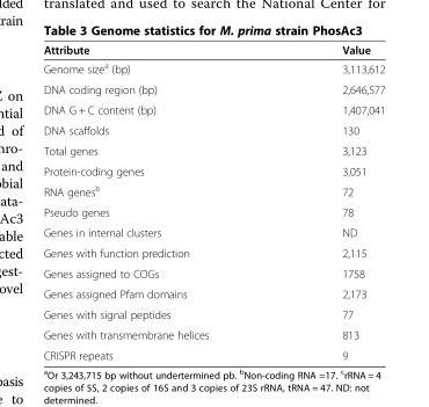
<table><thead><tr><td>Attribute</td><td>Value</td></tr></thead><tbody><tr><td>Genome size<sup>a</sup> (bp)</td><td>3,113,612</td></tr><tr><td>DNA coding region (bp)</td><td>2,646,577</td></tr><tr><td>DNA G + C content (bp)</td><td>1,407,041</td></tr><tr><td>DNA scaffolds</td><td>130</td></tr><tr><td>Total genes</td><td>3,123</td></tr><tr><td>Protein-coding genes</td><td>3,051</td></tr><tr><td>RNA genes<sup>b</sup></td><td>72</td></tr><tr><td>Pseudo genes</td><td>78</td></tr><tr><td>Genes in internal clusters</td><td>ND</td></tr><tr><td>Genes with function prediction</td><td>2,115</td></tr><tr><td>Genes assigned to COGs</td><td>1758</td></tr><tr><td>Genes assigned Pfam domains</td><td>2,173</td></tr><tr><td>Genes with signal peptides</td><td>77</td></tr><tr><td>Genes with transmembrane helices</td><td>813</td></tr><tr><td>CRISPR repeats</td><td>9</td></tr></tbody></table>